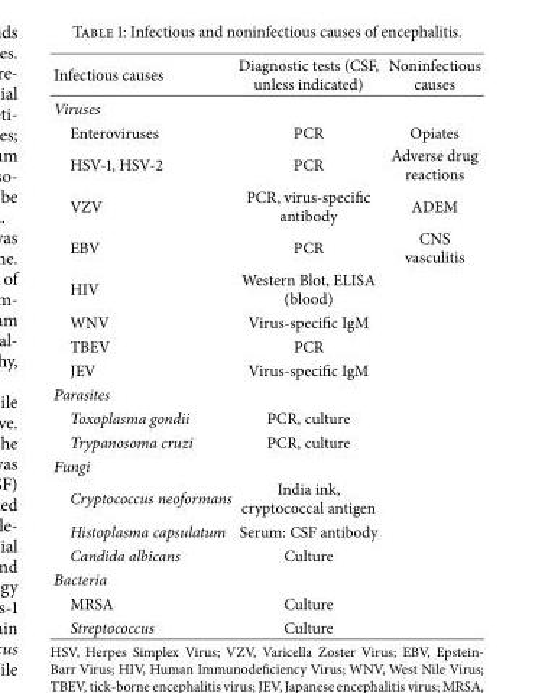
<table><thead><tr><td>Infectious causes</td><td>Diagnostic tests (CSF, unless indicated)</td><td>Noninfectious causes</td></tr></thead><tbody><tr><td colspan="3">Viruses</td></tr><tr><td>Enteroviruses</td><td>PCR</td><td>Opiates</td></tr><tr><td>HSV-1, HSV-2</td><td>PCR</td><td>Adverse drug reactions</td></tr><tr><td>VZV</td><td>PCR, virus-specific antibody</td><td>ADEM</td></tr><tr><td>EBV</td><td>PCR</td><td>CNS vasculitis</td></tr><tr><td>HIV</td><td>Western Blot, ELISA (blood)</td><td></td></tr><tr><td>WNV</td><td>Virus-specific IgM</td><td></td></tr><tr><td>TBEV</td><td>PCR</td><td></td></tr><tr><td>JEV</td><td>Virus-specific IgM</td><td></td></tr><tr><td colspan="3">Parasites</td></tr><tr><td>Toxoplasma gondii</td><td>PCR, culture</td><td></td></tr><tr><td>Trypanosoma cruzi</td><td>PCR, culture</td><td></td></tr><tr><td colspan="3">Fungi</td></tr><tr><td>Cryptococcus neoformans</td><td>India ink, cryptococcal antigen</td><td></td></tr><tr><td>Histoplasma capsulatum</td><td>Serum: CSF antibody</td><td></td></tr><tr><td>Candida albicans</td><td>Culture</td><td></td></tr><tr><td colspan="3">Bacteria</td></tr><tr><td>MRSA</td><td>Culture</td><td></td></tr><tr><td>Streptococcus</td><td>Culture</td><td></td></tr></tbody></table>